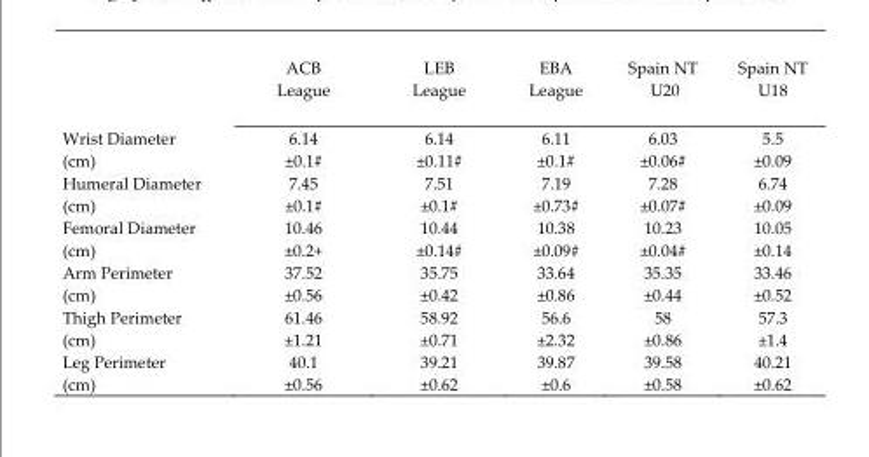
<table><thead><tr><td></td><td>ACB League</td><td>LEB League</td><td>EBA League</td><td>Spain NT U20</td><td>Spain NT U18</td></tr></thead><tbody><tr><td>Wrist Diameter (cm)</td><td>6.14 ±0.1#</td><td>6.14 ±0.11#</td><td>6.11 ±0.1#</td><td>6.03 ±0.06#</td><td>5.5 ±0.09</td></tr><tr><td>Humeral Diameter (cm)</td><td>7.45 ±0.1#</td><td>7.51 ±0.1#</td><td>7.19 ±0.73#</td><td>7.28 ±0.07#</td><td>6.74 ±0.09</td></tr><tr><td>Femoral Diameter (cm)</td><td>10.46 ±0.2+</td><td>10.44 ±0.14#</td><td>10.38 ±0.09#</td><td>10.23 ±0.04#</td><td>10.05 ±0.14</td></tr><tr><td>Arm Perimeter (cm)</td><td>37.52 ±0.56</td><td>35.75 ±0.42</td><td>33.64 ±0.86</td><td>35.35 ±0.44</td><td>33.46 ±0.52</td></tr><tr><td>Thigh Perimeter (cm)</td><td>61.46 ±1.21</td><td>58.92 ±0.71</td><td>56.6 ±2.32</td><td>58 ±0.86</td><td>57.3 ±1.4</td></tr><tr><td>Leg Perimeter (cm)</td><td>40.1 ±0.56</td><td>39.21 ±0.62</td><td>39.87 ±0.6</td><td>39.58 ±0.58</td><td>40.21 ±0.62</td></tr></tbody></table>